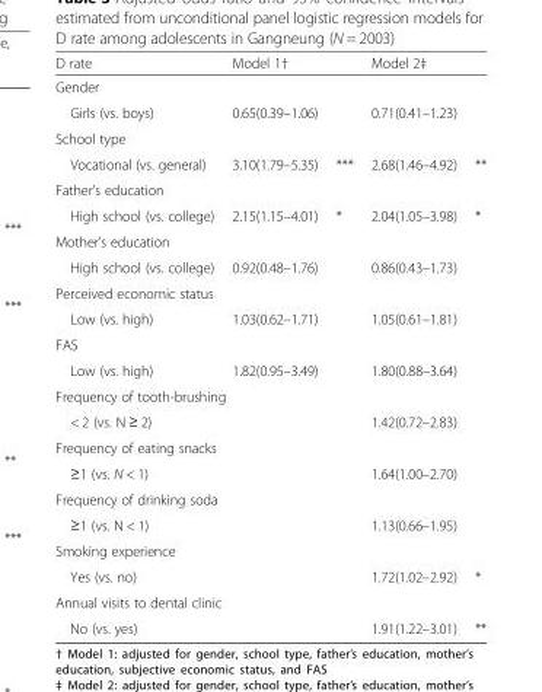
<table><thead><tr><td>D rate</td><td colspan="2">Model 1†</td><td colspan="2">Model 2‡</td></tr><tr><td colspan="5">Gender</td></tr><tr><td>Girls (vs. boys)</td><td>0.65(0.39–1.06)</td><td></td><td>0.71(0.41–1.23)</td><td></td></tr></thead><tbody><tr><td colspan="5">School type</td></tr><tr><td>Vocational (vs. general)</td><td>3.10(1.79–5.35)</td><td>***</td><td>2.68(1.46–4.92)</td><td>**</td></tr><tr><td colspan="5">Father’s education</td></tr><tr><td>High school (vs. college)</td><td>2.15(1.15–4.01)</td><td>*</td><td>2.04(1.05–3.98)</td><td>*</td></tr><tr><td colspan="5">Mother’s education</td></tr><tr><td>High school (vs. college)</td><td>0.92(0.48–1.76)</td><td></td><td>0.86(0.43–1.73)</td><td></td></tr><tr><td colspan="5">Perceived economic status</td></tr><tr><td>Low (vs. high)</td><td>1.03(0.62–1.71)</td><td></td><td>1.05(0.61–1.81)</td><td></td></tr><tr><td colspan="5">FAS</td></tr><tr><td>Low (vs. high)</td><td>1.82(0.95–3.49)</td><td></td><td>1.80(0.88–3.64)</td><td></td></tr><tr><td colspan="5">Frequency of tooth-brushing</td></tr><tr><td>&lt; 2 (vs. N ≥ 2)</td><td></td><td></td><td>1.42(0.72–2.83)</td><td></td></tr><tr><td colspan="5">Frequency of eating snacks</td></tr><tr><td>≥1 (vs. N &lt; 1)</td><td></td><td></td><td>1.64(1.00–2.70)</td><td></td></tr><tr><td colspan="5">Frequency of drinking soda</td></tr><tr><td>≥1 (vs. N &lt; 1)</td><td></td><td></td><td>1.13(0.66–1.95)</td><td></td></tr><tr><td colspan="5">Smoking experience</td></tr><tr><td>Yes (vs. no)</td><td></td><td></td><td>1.72(1.02–2.92)</td><td>*</td></tr><tr><td colspan="5">Annual visits to dental clinic</td></tr><tr><td>No (vs. yes)</td><td></td><td></td><td>1.91(1.22–3.01)</td><td>**</td></tr></tbody></table>